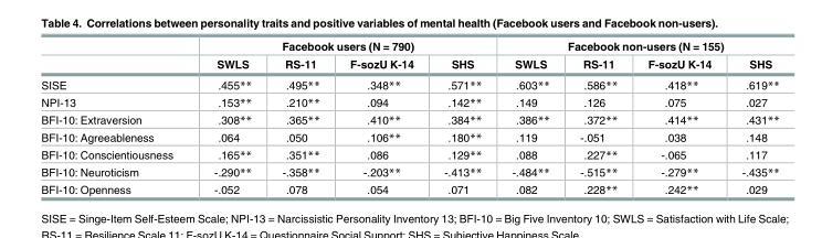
<table><thead><tr><td rowspan="2"></td><td colspan="4">Facebook users (N = 790)</td><td colspan="4">Facebook non-users (N = 155)</td></tr><tr><td>SWLS</td><td>RS-11</td><td>F-sozU K-14</td><td>SHS</td><td>SWLS</td><td>RS-11</td><td>F-sozU K-14</td><td>SHS</td></tr></thead><tbody><tr><td>SISE</td><td>.455**</td><td>.495**</td><td>.348**</td><td>.571**</td><td>.603**</td><td>.586**</td><td>.418**</td><td>.619**</td></tr><tr><td>NPI-13</td><td>.153**</td><td>.210**</td><td>.094</td><td>.142**</td><td>.149</td><td>.126</td><td>.075</td><td>.027</td></tr><tr><td>BFI-10: Extraversion</td><td>.308**</td><td>.365**</td><td>.410**</td><td>.384**</td><td>.386**</td><td>.372**</td><td>.414**</td><td>.431**</td></tr><tr><td>BFI-10: Agreeableness</td><td>.064</td><td>.050</td><td>.106**</td><td>.180**</td><td>.119</td><td>-.051</td><td>.038</td><td>.148</td></tr><tr><td>BFI-10: Conscientiousness</td><td>.165**</td><td>.351**</td><td>.086</td><td>.129**</td><td>.088</td><td>.227**</td><td>-.065</td><td>.117</td></tr><tr><td>BFI-10: Neuroticism</td><td>-.290**</td><td>-.358**</td><td>-.203**</td><td>-.413**</td><td>-.484**</td><td>-.515**</td><td>-.279**</td><td>-.435**</td></tr><tr><td>BFI-10: Openness</td><td>-.052</td><td>.078</td><td>.054</td><td>.071</td><td>.082</td><td>.228**</td><td>.242**</td><td>.029</td></tr></tbody></table>